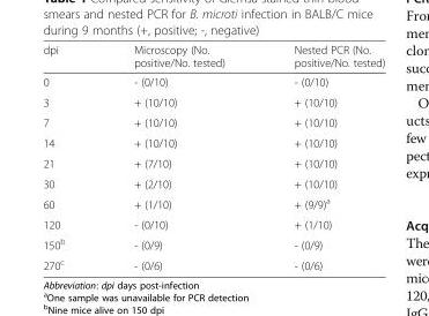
<table><thead><tr><td>dpi</td><td>Microscopy (No. positive/No. tested)</td><td>Nested PCR (No. positive/No. tested)</td></tr></thead><tbody><tr><td>0</td><td>- (0/10)</td><td>- (0/10)</td></tr><tr><td>3</td><td>+ (10/10)</td><td>+ (10/10)</td></tr><tr><td>7</td><td>+ (10/10)</td><td>+ (10/10)</td></tr><tr><td>14</td><td>+ (10/10)</td><td>+ (10/10)</td></tr><tr><td>21</td><td>+ (7/10)</td><td>+ (10/10)</td></tr><tr><td>30</td><td>+ (2/10)</td><td>+ (10/10)</td></tr><tr><td>60</td><td>+ (1/10)</td><td>+ (9/9)<sup>a</sup></td></tr><tr><td>120</td><td>- (0/10)</td><td>+ (1/10)</td></tr><tr><td>150<sup>b</sup></td><td>- (0/9)</td><td>- (0/9)</td></tr><tr><td>270<sup>c</sup></td><td>- (0/6)</td><td>- (0/6)</td></tr></tbody></table>